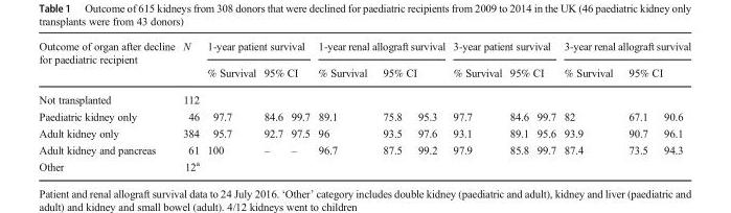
<table><thead><tr><td rowspan="3">Outcome of organ after decline for paediatric recipient Not transplanted</td><td rowspan="3">N 112</td><td colspan="3">1-year patient survival</td><td colspan="3">1-year renal allograft survival</td><td colspan="3">3-year patient survival</td><td colspan="3">3-year renal allograft survival</td></tr><tr><td rowspan="2">% Survival</td><td colspan="2">95% CI</td><td rowspan="2">% Survival</td><td colspan="2">95% CI</td><td rowspan="2">% Survival</td><td colspan="2">95% CI</td><td rowspan="2">% Survival</td><td colspan="2">95% CI</td></tr><tr><td></td><td></td><td></td><td></td><td></td><td></td><td></td><td></td></tr></thead><tbody><tr><td>Paediatric kidney only</td><td>46</td><td>97.7</td><td>84.6</td><td>99.7</td><td>89.1</td><td>75.8</td><td>95.3</td><td>97.7</td><td>84.6</td><td>99.7</td><td>82</td><td>67.1</td><td>90.6</td></tr><tr><td>Adult kidney only</td><td>384</td><td>95.7</td><td>92.7</td><td>97.5</td><td>96</td><td>93.5</td><td>97.6</td><td>93.1</td><td>89.1</td><td>95.6</td><td>93.9</td><td>90.7</td><td>96.1</td></tr><tr><td>Adult kidney and pancreas</td><td>61</td><td>100</td><td>–</td><td>–</td><td>96.7</td><td>87.5</td><td>99.2</td><td>97.9</td><td>85.8</td><td>99.7</td><td>87.4</td><td>73.5</td><td>94.3</td></tr><tr><td>Other</td><td>12<sup>a</sup></td><td></td><td></td><td></td><td></td><td></td><td></td><td></td><td></td><td></td><td></td><td></td><td></td></tr></tbody></table>